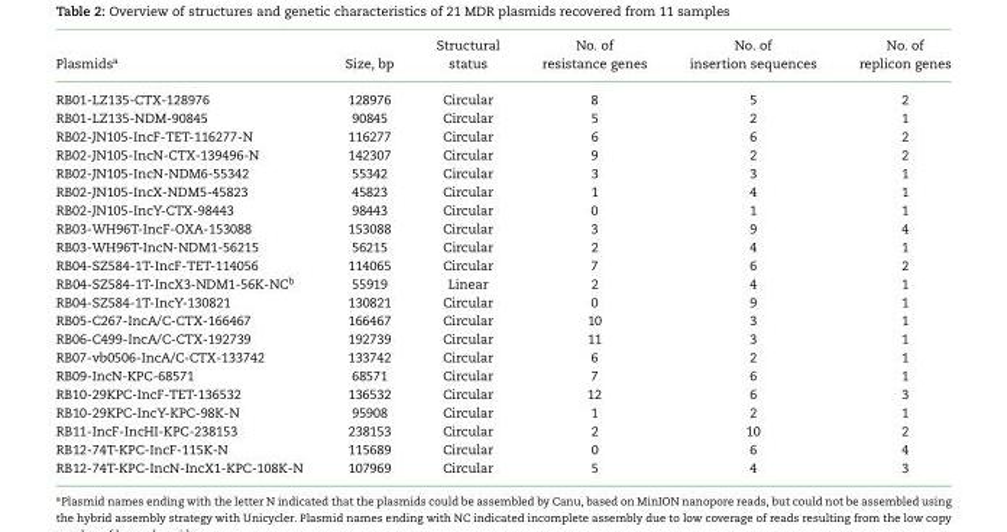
<table><thead><tr><td>Plasmids<sup>a</sup></td><td>Size, bp</td><td>status</td><td>resistance genes</td><td>insertion sequences</td><td>replicon genes</td></tr></thead><tbody><tr><td>RB01-LZ135-CTX-128976</td><td>128976</td><td>Circular</td><td>8</td><td>5</td><td>2</td></tr><tr><td>RB01-LZ135-NDM-90845</td><td>90845</td><td>Circular</td><td>5</td><td>2</td><td>1</td></tr><tr><td>RB02-JN105-IncF-TET-116277-N</td><td>116277</td><td>Circular</td><td>6</td><td>6</td><td>2</td></tr><tr><td>RB02-JN105-IncN-CTX-139496-N</td><td>142307</td><td>Circular</td><td>9</td><td>2</td><td>2</td></tr><tr><td>RB02-JN105-IncN-NDM6-55342</td><td>55342</td><td>Circular</td><td>3</td><td>3</td><td>1</td></tr><tr><td>RB02-JN105-IncX-NDM5-45823</td><td>45823</td><td>Circular</td><td>1</td><td>4</td><td>1</td></tr><tr><td>RB02-JN105-IncY-CTX-98443</td><td>98443</td><td>Circular</td><td>0</td><td>1</td><td>1</td></tr><tr><td>RB03-WH96T-IncF-OXA-153088</td><td>153088</td><td>Circular</td><td>3</td><td>9</td><td>4</td></tr><tr><td>RB03-WH96T-IncN-NDM1-56215</td><td>56215</td><td>Circular</td><td>2</td><td>4</td><td>1</td></tr><tr><td>RB04-SZ584-1T-IncF-TET-114056</td><td>114065</td><td>Circular</td><td>7</td><td>6</td><td>2</td></tr><tr><td>RB04-SZ584-1T-IncX3-NDM1-56K-NC<sup>b</sup></td><td>55919</td><td>Linear</td><td>2</td><td>4</td><td>1</td></tr><tr><td>RB04-SZ584-1T-IncY-130821</td><td>130821</td><td>Circular</td><td>0</td><td>9</td><td>1</td></tr><tr><td>RB05-C267-IncA/C-CTX-166467</td><td>166467</td><td>Circular</td><td>10</td><td>3</td><td>1</td></tr><tr><td>RB06-C499-IncA/C-CTX-192739</td><td>192739</td><td>Circular</td><td>11</td><td>3</td><td>1</td></tr><tr><td>RB07-vb0506-IncA/C-CTX-133742</td><td>133742</td><td>Circular</td><td>6</td><td>2</td><td>1</td></tr><tr><td>RB09-IncN-KPC-68571</td><td>68571</td><td>Circular</td><td>7</td><td>6</td><td>1</td></tr><tr><td>RB10-29KPC-IncF-TET-136532</td><td>136532</td><td>Circular</td><td>12</td><td>6</td><td>3</td></tr><tr><td>RB10-29KPC-IncY-KPC-98K-N</td><td>95908</td><td>Circular</td><td>1</td><td>2</td><td>1</td></tr><tr><td>RB11-IncF-IncHI-KPC-238153</td><td>238153</td><td>Circular</td><td>2</td><td>10</td><td>2</td></tr><tr><td>RB12-74T-KPC-IncF-115K-N</td><td>115689</td><td>Circular</td><td>0</td><td>6</td><td>4</td></tr><tr><td>RB12-74T-KPC-IncN-IncX1-KPC-108K-N</td><td>107969</td><td>Circular</td><td>5</td><td>4</td><td>3</td></tr></tbody></table>